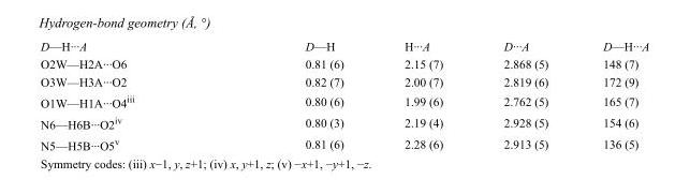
<table><tbody><tr><td>D—H···A</td><td>D—H</td><td>H···A</td><td>D···A</td><td>D—H···A</td></tr><tr><td>O2W—H2A···O6</td><td>0.81 (6)</td><td>2.15 (7)</td><td>2.868 (5)</td><td>148 (7)</td></tr><tr><td>O3W—H3A···O2</td><td>0.82 (7)</td><td>2.00 (7)</td><td>2.819 (6)</td><td>172 (9)</td></tr><tr><td>O1W—H1A···O4<sup>iii</sup></td><td>0.80 (6)</td><td>1.99 (6)</td><td>2.762 (5)</td><td>165 (7)</td></tr><tr><td>N6—H6B···O2<sup>iv</sup></td><td>0.80 (3)</td><td>2.19 (4)</td><td>2.928 (5)</td><td>154 (6)</td></tr><tr><td>N5—H5B···O5<sup>v</sup></td><td>0.81 (6)</td><td>2.28 (6)</td><td>2.913 (5)</td><td>136 (5)</td></tr></tbody></table>